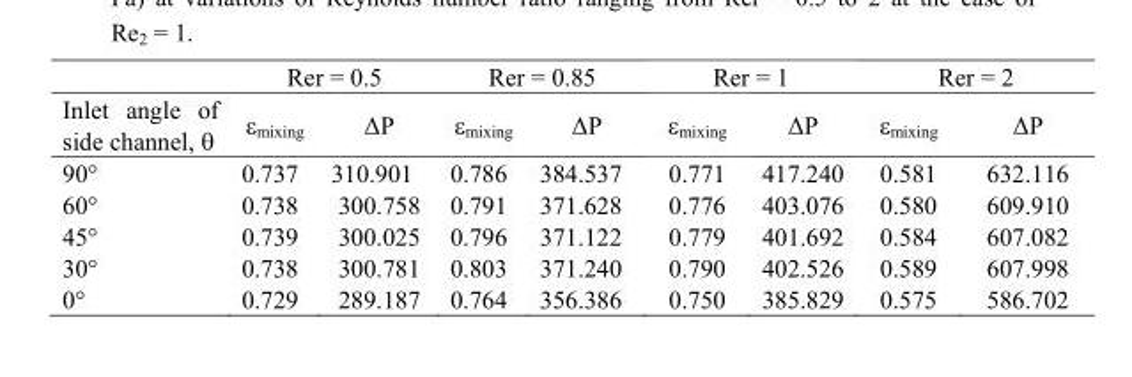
<table><thead><tr><td rowspan="2">Inlet angle of side channel, θ</td><td colspan="2">Rer = 0.5</td><td colspan="2">Rer = 0.85</td><td colspan="2">Rer = 1</td><td colspan="2">Rer = 2</td></tr><tr><td>ε<sub>mixing</sub></td><td>ΔP</td><td>ε<sub>mixing</sub></td><td>ΔP</td><td>ε<sub>mixing</sub></td><td>ΔP</td><td>ε<sub>mixing</sub></td><td>ΔP</td></tr></thead><tbody><tr><td>90°</td><td>0.737</td><td>310.901</td><td>0.786</td><td>384.537</td><td>0.771</td><td>417.240</td><td>0.581</td><td>632.116</td></tr><tr><td>60°</td><td>0.738</td><td>300.758</td><td>0.791</td><td>371.628</td><td>0.776</td><td>403.076</td><td>0.580</td><td>609.910</td></tr><tr><td>45°</td><td>0.739</td><td>300.025</td><td>0.796</td><td>371.122</td><td>0.779</td><td>401.692</td><td>0.584</td><td>607.082</td></tr><tr><td>30°</td><td>0.738</td><td>300.781</td><td>0.803</td><td>371.240</td><td>0.790</td><td>402.526</td><td>0.589</td><td>607.998</td></tr><tr><td>0°</td><td>0.729</td><td>289.187</td><td>0.764</td><td>356.386</td><td>0.750</td><td>385.829</td><td>0.575</td><td>586.702</td></tr></tbody></table>